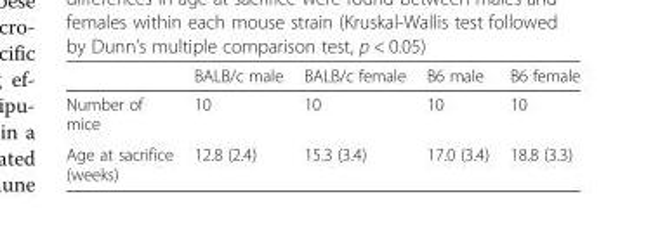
<table><thead><tr><td></td><td>BALB/c male</td><td>BALB/c female</td><td>B6 male</td><td>B6 female</td></tr></thead><tbody><tr><td>Number of mice</td><td>10</td><td>10</td><td>10</td><td>10</td></tr><tr><td>Age at sacrifice (weeks)</td><td>12.8 (2.4)</td><td>15.3 (3.4)</td><td>17.0 (3.4)</td><td>18.8 (3.3)</td></tr></tbody></table>